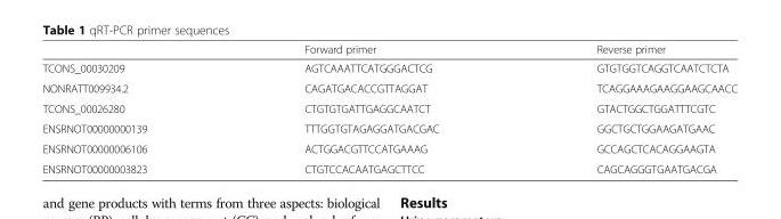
<table><thead><tr><td></td><td>Forward primer</td><td>Reverse primer</td></tr></thead><tbody><tr><td>TCONS_00030209</td><td>AGTCAAATTCATGGGACTCG</td><td>GTGTGGTCAGGTCAATCTCTA</td></tr><tr><td>NONRATT009934.2</td><td>CAGATGACACCGTTAGGAT</td><td>TCAGGAAAGAAGGAAGCAACC</td></tr><tr><td>TCONS_00026280</td><td>CTGTGTGATTGAGGCAATCT</td><td>GTACTGGCTGGATTTCGTC</td></tr><tr><td>ENSRNOT00000000139</td><td>TTTGGTGTAGAGGATGACGAC</td><td>GGCTGCTGGAAGATGAAC</td></tr><tr><td>ENSRNOT00000006106</td><td>ACTGGACGTTCCATGAAAG</td><td>GCCAGCTCACAGGAAGTA</td></tr><tr><td>ENSRNOT00000003823</td><td>CTGTCCACAATGAGCTTCC</td><td>CAGCAGGGTGAATGACGA</td></tr></tbody></table>